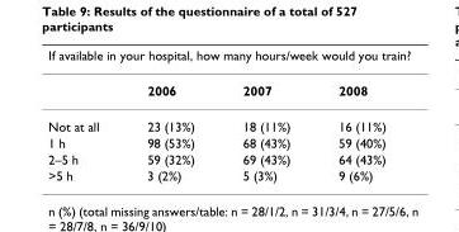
<table><thead><tr><td colspan="4">If available in your hospital, how many hours/week would you train?</td></tr><tr><td></td><td>2006</td><td>2007</td><td>2008</td></tr></thead><tbody><tr><td>Not at all</td><td>23 (13%)</td><td>18 (11%)</td><td>16 (11%)</td></tr><tr><td>1 h</td><td>98 (53%)</td><td>68 (43%)</td><td>59 (40%)</td></tr><tr><td>2–5 h</td><td>59 (32%)</td><td>69 (43%)</td><td>64 (43%)</td></tr><tr><td>&gt;5 h</td><td>3 (2%)</td><td>5 (3%)</td><td>9 (6%)</td></tr></tbody></table>